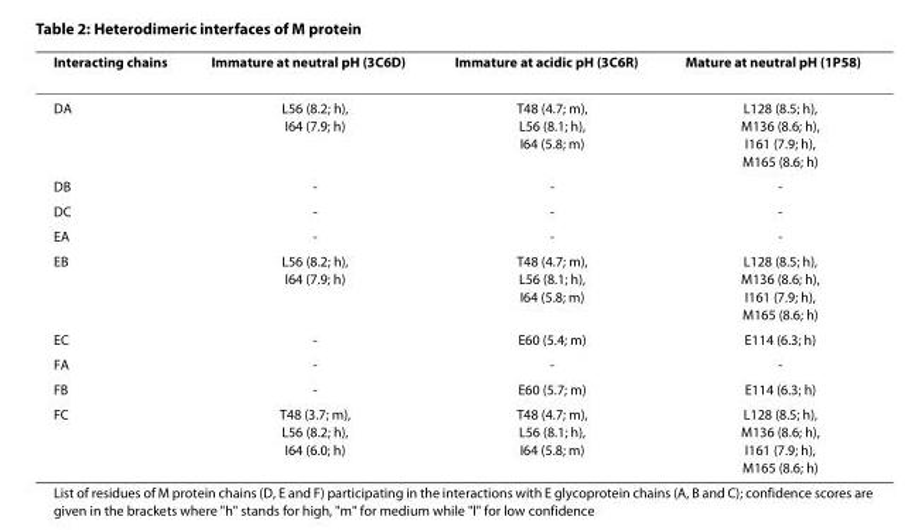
<table><thead><tr><td>Interacting chains</td><td>Immature at neutral pH (3C6D)</td><td>Immature at acidic pH (3C6R)</td><td>Mature at neutral pH (1P58)</td></tr></thead><tbody><tr><td>DA</td><td>L56 (8.2; h), I64 (7.9; h)</td><td>T48 (4.7; m), L56 (8.1; h), I64 (5.8; m)</td><td>L128 (8.5; h), M136 (8.6; h), I161 (7.9; h), M165 (8.6; h)</td></tr><tr><td>DB</td><td>-</td><td>-</td><td>-</td></tr><tr><td>DC</td><td>-</td><td>-</td><td>-</td></tr><tr><td>EA</td><td>-</td><td>-</td><td>-</td></tr><tr><td>EB</td><td>L56 (8.2; h), I64 (7.9; h)</td><td>T48 (4.7; m), L56 (8.1; h), I64 (5.8; m)</td><td>L128 (8.5; h), M136 (8.6; h), I161 (7.9; h), M165 (8.6; h)</td></tr><tr><td>EC</td><td>-</td><td>E60 (5.4; m)</td><td>E114 (6.3; h)</td></tr><tr><td>FA</td><td>-</td><td>-</td><td>-</td></tr><tr><td>FB</td><td>-</td><td>E60 (5.7; m)</td><td>E114 (6.3; h)</td></tr><tr><td>FC</td><td>T48 (3.7; m), L56 (8.2; h), I64 (6.0; h)</td><td>T48 (4.7; m), L56 (8.1; h), I64 (5.8; m)</td><td>L128 (8.5; h), M136 (8.6; h), I161 (7.9; h), M165 (8.6; h)</td></tr></tbody></table>